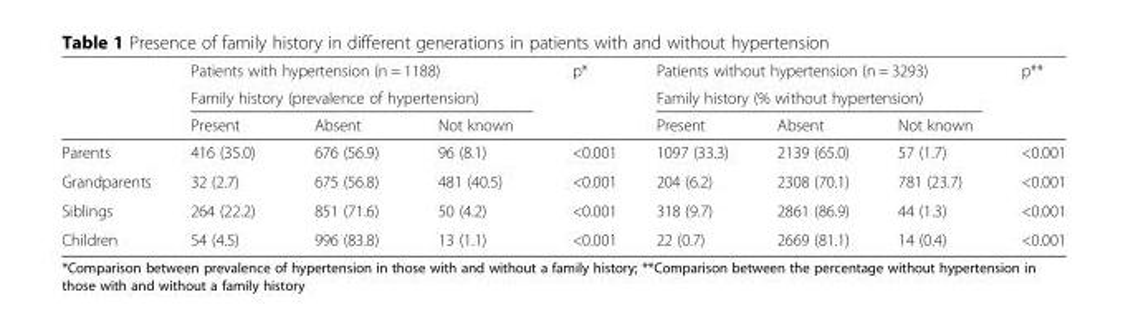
<table><thead><tr><td rowspan="3"></td><td rowspan="2" colspan="3">Patients with hypertension (n = 1188) Family history (prevalence of hypertension)</td><td rowspan="3">p*</td><td rowspan="2" colspan="3">Patients without hypertension (n = 3293) Family history (% without hypertension)</td><td rowspan="3">p**</td></tr><tr></tr><tr><td>Present</td><td>Absent</td><td>Not known</td><td>Present</td><td>Absent</td><td>Not known</td></tr></thead><tbody><tr><td>Parents</td><td>416 (35.0)</td><td>676 (56.9)</td><td>96 (8.1)</td><td>&lt;0.001</td><td>1097 (33.3)</td><td>2139 (65.0)</td><td>57 (1.7)</td><td>&lt;0.001</td></tr><tr><td>Grandparents</td><td>32 (2.7)</td><td>675 (56.8)</td><td>481 (40.5)</td><td>&lt;0.001</td><td>204 (6.2)</td><td>2308 (70.1)</td><td>781 (23.7)</td><td>&lt;0.001</td></tr><tr><td>Siblings</td><td>264 (22.2)</td><td>851 (71.6)</td><td>50 (4.2)</td><td>&lt;0.001</td><td>318 (9.7)</td><td>2861 (86.9)</td><td>44 (1.3)</td><td>&lt;0.001</td></tr><tr><td>Children</td><td>54 (4.5)</td><td>996 (83.8)</td><td>13 (1.1)</td><td>&lt;0.001</td><td>22 (0.7)</td><td>2669 (81.1)</td><td>14 (0.4)</td><td>&lt;0.001</td></tr></tbody></table>